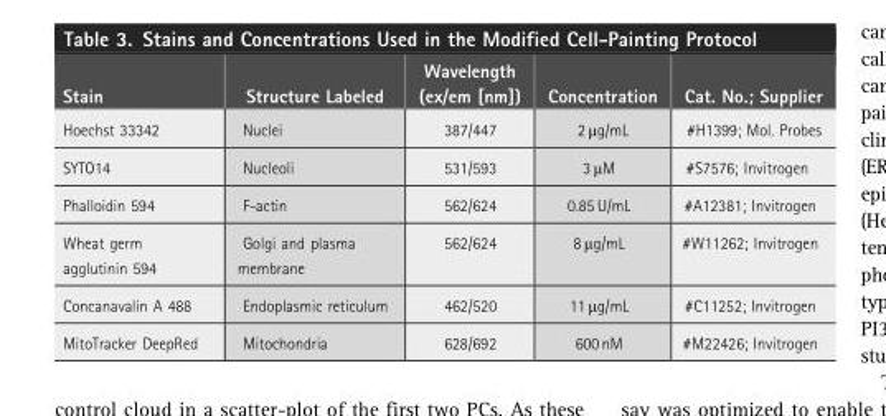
<table><thead><tr><td>Stain</td><td>Structure Labeled</td><td>Wavelength (ex/em [nm])</td><td>Concentration</td><td>Cat. No.; Supplier</td></tr></thead><tbody><tr><td>Hoechst 33342</td><td>Nuclei</td><td>387/447</td><td>2 μg/mL</td><td>#H1399; Mol. Probes</td></tr><tr><td>SYTO14</td><td>Nucleoli</td><td>531/593</td><td>3 μM</td><td>#S7576; Invitrogen</td></tr><tr><td>Phalloidin 594</td><td>F-actin</td><td>562/624</td><td>0.85 U/mL</td><td>#A12381; Invitrogen</td></tr><tr><td>Wheat germ agglutinin 594</td><td>Golgi and plasma membrane</td><td>562/624</td><td>8 μg/mL</td><td>#W11262; Invitrogen</td></tr><tr><td>Concanavalin A 488</td><td>Endoplasmic reticulum</td><td>462/520</td><td>11 μg/mL</td><td>#C11252; Invitrogen</td></tr><tr><td>MitoTracker DeepRed</td><td>Mitochondria</td><td>628/692</td><td>600 nM</td><td>#M22426; Invitrogen</td></tr></tbody></table>